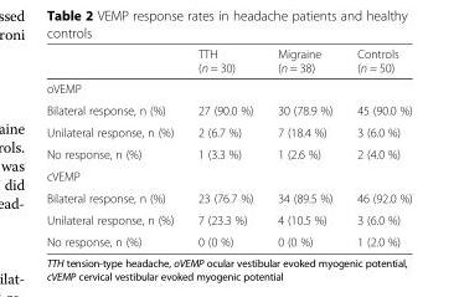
<table><thead><tr><td></td><td>TTH (n = 30)</td><td>Migraine (n = 38)</td><td>Controls (n = 50)</td></tr></thead><tbody><tr><td colspan="4">oVEMP</td></tr><tr><td>Bilateral response, n (%)</td><td>27 (90.0 %)</td><td>30 (78.9 %)</td><td>45 (90.0 %)</td></tr><tr><td>Unilateral response, n (%)</td><td>2 (6.7 %)</td><td>7 (18.4 %)</td><td>3 (6.0 %)</td></tr><tr><td>No response, n (%)</td><td>1 (3.3 %)</td><td>1 (2.6 %)</td><td>2 (4.0 %)</td></tr><tr><td colspan="4">cVEMP</td></tr><tr><td>Bilateral response, n (%)</td><td>23 (76.7 %)</td><td>34 (89.5 %)</td><td>46 (92.0 %)</td></tr><tr><td>Unilateral response, n (%)</td><td>7 (23.3 %)</td><td>4 (10.5 %)</td><td>3 (6.0 %)</td></tr><tr><td>No response, n (%)</td><td>0 (0 %)</td><td>0 (0 %)</td><td>1 (2.0 %)</td></tr></tbody></table>